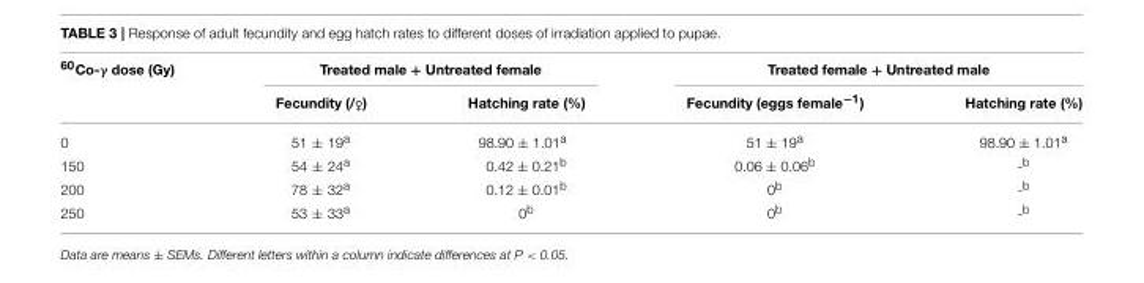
<table><thead><tr><td rowspan="2"><sup>60</sup>Co-γ dose (Gy)</td><td colspan="2">Treated male + Untreated female</td><td colspan="2">Treated female + Untreated male</td></tr><tr><td>Fecundity (/♀)</td><td>Hatching rate (%)</td><td>Fecundity (eggs female<sup>−1</sup>)</td><td>Hatching rate (%)</td></tr></thead><tbody><tr><td>0</td><td>51 ± 19<sup>a</sup></td><td>98.90 ± 1.01<sup>a</sup></td><td>51 ± 19<sup>a</sup></td><td>98.90 ± 1.01<sup>a</sup></td></tr><tr><td>150</td><td>54 ± 24<sup>a</sup></td><td>0.42 ± 0.21<sup>b</sup></td><td>0.06 ± 0.06<sup>b</sup></td><td>-<sup>b</sup></td></tr><tr><td>200</td><td>78 ± 32<sup>a</sup></td><td>0.12 ± 0.01<sup>b</sup></td><td>0<sup>b</sup></td><td>-<sup>b</sup></td></tr><tr><td>250</td><td>53 ± 33<sup>a</sup></td><td>0<sup>b</sup></td><td>0<sup>b</sup></td><td>-<sup>b</sup></td></tr></tbody></table>